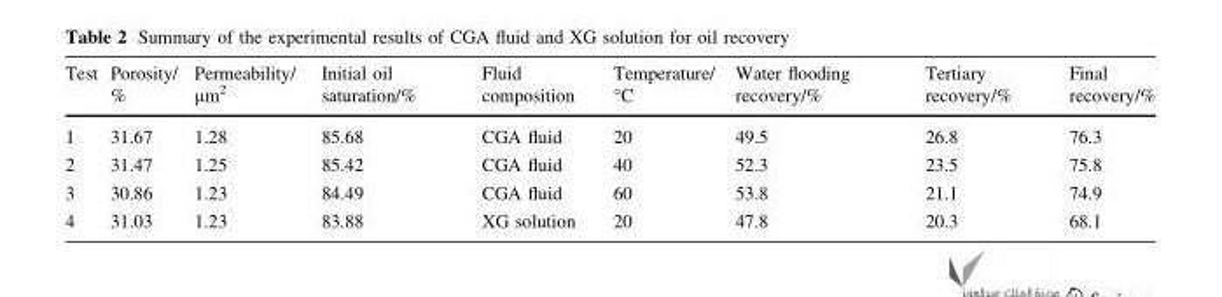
<table><thead><tr><td>Test</td><td>Porosity/ %</td><td>Permeability/ μm<sup>2</sup></td><td>Initial oil saturation/%</td><td>Fluid composition</td><td>Temperature/ °C</td><td>Water flooding recovery/%</td><td>Tertiary recovery/%</td><td>Final recovery/%</td></tr></thead><tbody><tr><td>1</td><td>31.67</td><td>1.28</td><td>85.68</td><td>CGA fluid</td><td>20</td><td>49.5</td><td>26.8</td><td>76.3</td></tr><tr><td>2</td><td>31.47</td><td>1.25</td><td>85.42</td><td>CGA fluid</td><td>40</td><td>52.3</td><td>23.5</td><td>75.8</td></tr><tr><td>3</td><td>30.86</td><td>1.23</td><td>84.49</td><td>CGA fluid</td><td>60</td><td>53.8</td><td>21.1</td><td>74.9</td></tr><tr><td>4</td><td>31.03</td><td>1.23</td><td>83.88</td><td>XG solution</td><td>20</td><td>47.8</td><td>20.3</td><td>68.1</td></tr></tbody></table>